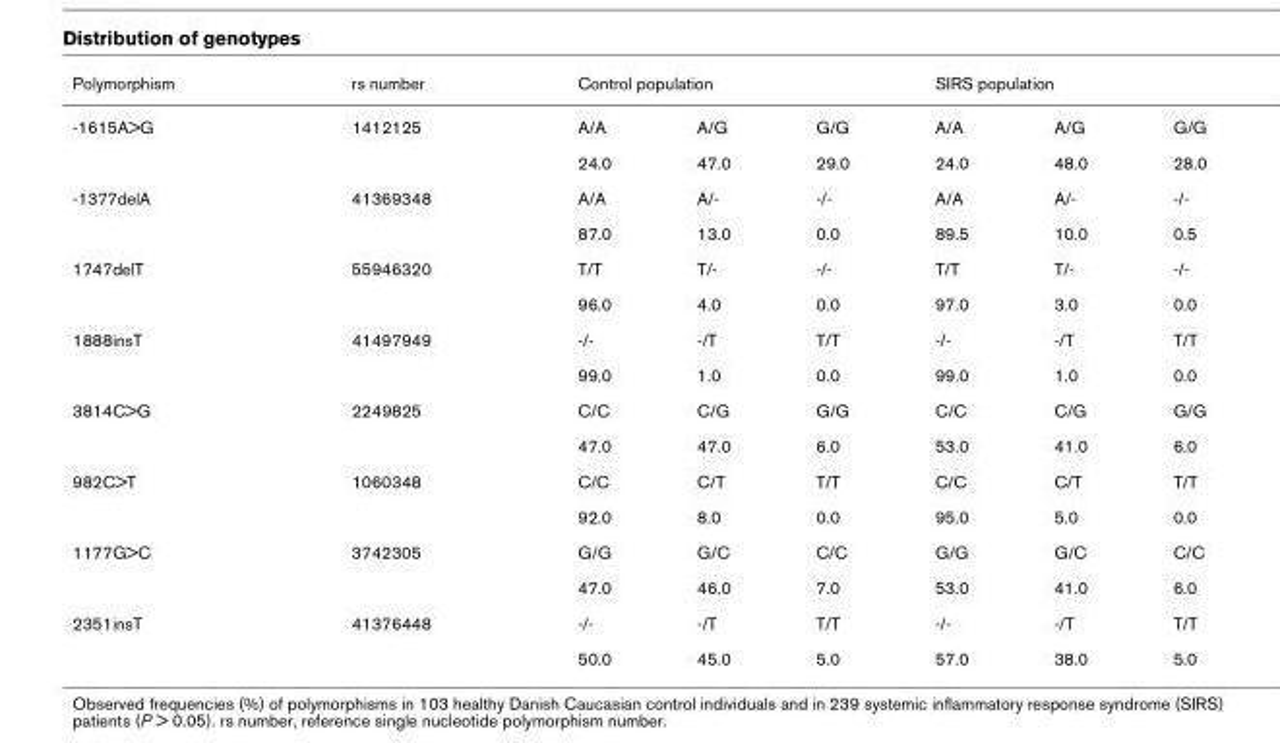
<table><thead><tr><td rowspan="2">Polymorphism -1615A&gt;G</td><td rowspan="2">rs number 1412125</td><td colspan="3">Control population</td><td colspan="3">SIRS population</td></tr><tr><td>A/A</td><td>A/G</td><td>G/G</td><td>A/A</td><td>A/G</td><td>G/G</td></tr></thead><tbody><tr><td></td><td></td><td>24.0</td><td>47.0</td><td>29.0</td><td>24.0</td><td>48.0</td><td>28.0</td></tr><tr><td rowspan="2">-1377delA</td><td>41369348</td><td>A/A</td><td>A/-</td><td>-/-</td><td>A/A</td><td>A/-</td><td>-/-</td></tr><tr><td></td><td>87.0</td><td>13.0</td><td>0.0</td><td>89.5</td><td>10.0</td><td>0.5</td></tr><tr><td rowspan="2">1747delT</td><td>55946320</td><td>T/T</td><td>T/-</td><td>-/-</td><td>T/T</td><td>T/-</td><td>-/-</td></tr><tr><td></td><td>96.0</td><td>4.0</td><td>0.0</td><td>97.0</td><td>3.0</td><td>0.0</td></tr><tr><td rowspan="2">1888insT</td><td>41497949</td><td>-/-</td><td>-/T</td><td>T/T</td><td>-/-</td><td>-/T</td><td>T/T</td></tr><tr><td></td><td>99.0</td><td>1.0</td><td>0.0</td><td>99.0</td><td>1.0</td><td>0.0</td></tr><tr><td rowspan="2">3814C&gt;G</td><td>2249825</td><td>C/C</td><td>C/G</td><td>G/G</td><td>C/C</td><td>C/G</td><td>G/G</td></tr><tr><td></td><td>47.0</td><td>47.0</td><td>6.0</td><td>53.0</td><td>41.0</td><td>6.0</td></tr><tr><td rowspan="2">982C&gt;T</td><td>1060348</td><td>C/C</td><td>C/T</td><td>T/T</td><td>C/C</td><td>C/T</td><td>T/T</td></tr><tr><td></td><td>92.0</td><td>8.0</td><td>0.0</td><td>95.0</td><td>5.0</td><td>0.0</td></tr><tr><td rowspan="2">1177G&gt;C</td><td>3742305</td><td>G/G</td><td>G/C</td><td>C/C</td><td>G/G</td><td>G/C</td><td>C/C</td></tr><tr><td></td><td>47.0</td><td>46.0</td><td>7.0</td><td>53.0</td><td>41.0</td><td>6.0</td></tr><tr><td rowspan="2">2351insT</td><td>41376448</td><td>-/-</td><td>-/T</td><td>T/T</td><td>-/-</td><td>-/T</td><td>T/T</td></tr><tr><td></td><td>50.0</td><td>45.0</td><td>5.0</td><td>57.0</td><td>38.0</td><td>5.0</td></tr></tbody></table>